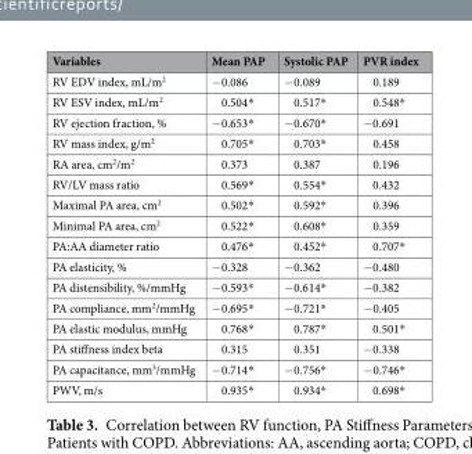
<table><thead><tr><td>Variables</td><td>Mean PAP</td><td>Systolic PAP</td><td>PVR index</td></tr></thead><tbody><tr><td>RV EDV index, mL/m<sup>2</sup></td><td>−0.086</td><td>−0.089</td><td>0.189</td></tr><tr><td>RV ESV index, mL/m<sup>2</sup></td><td>0.504*</td><td>0.517*</td><td>0.548*</td></tr><tr><td>RV ejection fraction, %</td><td>−0.653*</td><td>−0.670*</td><td>−0.691</td></tr><tr><td>RV mass index, g/m<sup>2</sup></td><td>0.705*</td><td>0.703*</td><td>0.458</td></tr><tr><td>RA area, cm<sup>2</sup>/m<sup>2</sup></td><td>0.373</td><td>0.387</td><td>0.196</td></tr><tr><td>RV/LV mass ratio</td><td>0.569*</td><td>0.554*</td><td>0.432</td></tr><tr><td>Maximal PA area, cm<sup>2</sup></td><td>0.502*</td><td>0.592*</td><td>0.396</td></tr><tr><td>Minimal PA area, cm<sup>2</sup></td><td>0.522*</td><td>0.608*</td><td>0.359</td></tr><tr><td>PA:AA diameter ratio</td><td>0.476*</td><td>0.452*</td><td>0.707*</td></tr><tr><td>PA elasticity, %</td><td>−0.328</td><td>−0.362</td><td>−0.480</td></tr><tr><td>PA distensibility, %/mmHg</td><td>−0.593*</td><td>−0.614*</td><td>−0.382</td></tr><tr><td>PA compliance, mm<sup>2</sup>/mmHg</td><td>−0.695*</td><td>−0.721*</td><td>−0.405</td></tr><tr><td>PA elastic modulus, mmHg</td><td>0.768*</td><td>0.787*</td><td>0.501*</td></tr><tr><td>PA stiffness index beta</td><td>0.315</td><td>0.351</td><td>−0.338</td></tr><tr><td>PA capacitance, mm<sup>3</sup>/mmHg</td><td>−0.714*</td><td>−0.756*</td><td>−0.746*</td></tr><tr><td>PWV, m/s</td><td>0.935*</td><td>0.934*</td><td>0.698*</td></tr></tbody></table>